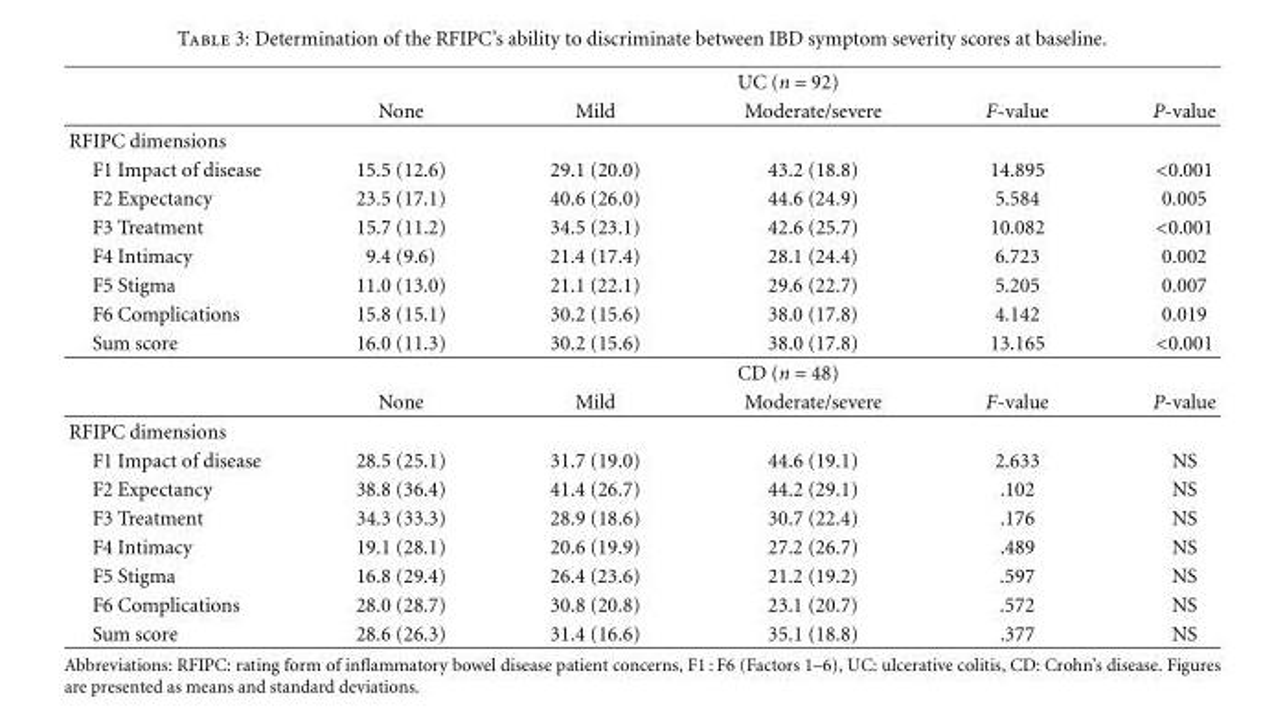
<table><thead><tr><td rowspan="2"></td><td colspan="5">UC (n = 92)</td></tr><tr><td>None</td><td>Mild</td><td>Moderate/severe</td><td>F-value</td><td>P-value</td></tr></thead><tbody><tr><td colspan="6">RFIPC dimensions</td></tr><tr><td>F1 Impact of disease</td><td>15.5 (12.6)</td><td>29.1 (20.0)</td><td>43.2 (18.8)</td><td>14.895</td><td>&lt;0.001</td></tr><tr><td>F2 Expectancy</td><td>23.5 (17.1)</td><td>40.6 (26.0)</td><td>44.6 (24.9)</td><td>5.584</td><td>0.005</td></tr><tr><td>F3 Treatment</td><td>15.7 (11.2)</td><td>34.5 (23.1)</td><td>42.6 (25.7)</td><td>10.082</td><td>&lt;0.001</td></tr><tr><td>F4 Intimacy</td><td>9.4 (9.6)</td><td>21.4 (17.4)</td><td>28.1 (24.4)</td><td>6.723</td><td>0.002</td></tr><tr><td>F5 Stigma</td><td>11.0 (13.0)</td><td>21.1 (22.1)</td><td>29.6 (22.7)</td><td>5.205</td><td>0.007</td></tr><tr><td>F6 Complications</td><td>15.8 (15.1)</td><td>30.2 (15.6)</td><td>38.0 (17.8)</td><td>4.142</td><td>0.019</td></tr><tr><td rowspan="3">Sum score</td><td>16.0 (11.3)</td><td>30.2 (15.6)</td><td>38.0 (17.8)</td><td>13.165</td><td>&lt;0.001</td></tr><tr><td colspan="5">CD (n = 48)</td></tr><tr><td>None</td><td>Mild</td><td>Moderate/severe</td><td>F-value</td><td>P-value</td></tr><tr><td colspan="6">RFIPC dimensions</td></tr><tr><td>F1 Impact of disease</td><td>28.5 (25.1)</td><td>31.7 (19.0)</td><td>44.6 (19.1)</td><td>2.633</td><td>NS</td></tr><tr><td>F2 Expectancy</td><td>38.8 (36.4)</td><td>41.4 (26.7)</td><td>44.2 (29.1)</td><td>.102</td><td>NS</td></tr><tr><td>F3 Treatment</td><td>34.3 (33.3)</td><td>28.9 (18.6)</td><td>30.7 (22.4)</td><td>.176</td><td>NS</td></tr><tr><td>F4 Intimacy</td><td>19.1 (28.1)</td><td>20.6 (19.9)</td><td>27.2 (26.7)</td><td>.489</td><td>NS</td></tr><tr><td>F5 Stigma</td><td>16.8 (29.4)</td><td>26.4 (23.6)</td><td>21.2 (19.2)</td><td>.597</td><td>NS</td></tr><tr><td>F6 Complications</td><td>28.0 (28.7)</td><td>30.8 (20.8)</td><td>23.1 (20.7)</td><td>.572</td><td>NS</td></tr><tr><td>Sum score</td><td>28.6 (26.3)</td><td>31.4 (16.6)</td><td>35.1 (18.8)</td><td>.377</td><td>NS</td></tr></tbody></table>